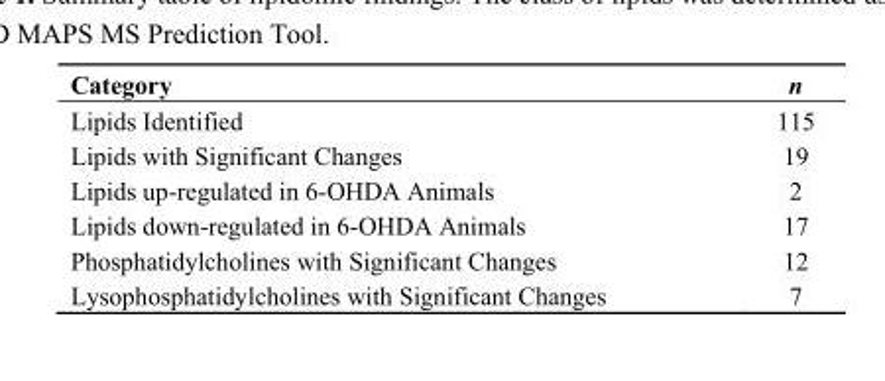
<table><thead><tr><td>Category</td><td>n</td></tr></thead><tbody><tr><td>Lipids Identified</td><td>115</td></tr><tr><td>Lipids with Significant Changes</td><td>19</td></tr><tr><td>Lipids up-regulated in 6-OHDA Animals</td><td>2</td></tr><tr><td>Lipids down-regulated in 6-OHDA Animals</td><td>17</td></tr><tr><td>Phosphatidylcholines with Significant Changes</td><td>12</td></tr><tr><td>Lysophosphatidylcholines with Significant Changes</td><td>7</td></tr></tbody></table>